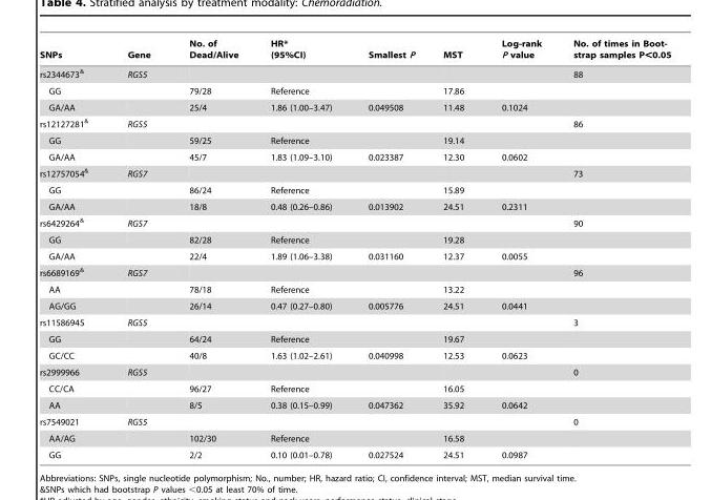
<table><thead><tr><td>SNPs</td><td>Gene</td><td>No. of Dead/Alive</td><td>HR* (95%CI)</td><td>Smallest P</td><td>MST</td><td>Log-rank P value</td><td>No. of times in Boot- strap samples P,0.05</td></tr></thead><tbody><tr><td>rs2344673&amp;</td><td>RGS5</td><td></td><td></td><td></td><td></td><td></td><td>88</td></tr><tr><td>GG</td><td></td><td>79/28</td><td>Reference</td><td></td><td>17.86</td><td></td><td></td></tr><tr><td>GA/AA</td><td></td><td>25/4</td><td>1.86 (1.00–3.47)</td><td>0.049508</td><td>11.48</td><td>0.1024</td><td></td></tr><tr><td>rs12127281&amp;</td><td>RGS5</td><td></td><td></td><td></td><td></td><td></td><td>86</td></tr><tr><td>GG</td><td></td><td>59/25</td><td>Reference</td><td></td><td>19.14</td><td></td><td></td></tr><tr><td>GA/AA</td><td></td><td>45/7</td><td>1.83 (1.09–3.10)</td><td>0.023387</td><td>12.30</td><td>0.0602</td><td></td></tr><tr><td>rs12757054&amp;</td><td>RGS7</td><td></td><td></td><td></td><td></td><td></td><td>73</td></tr><tr><td>GG</td><td></td><td>86/24</td><td>Reference</td><td></td><td>15.89</td><td></td><td></td></tr><tr><td>GA/AA</td><td></td><td>18/8</td><td>0.48 (0.26–0.86)</td><td>0.013902</td><td>24.51</td><td>0.2311</td><td></td></tr><tr><td>rs6429264&amp;</td><td>RGS7</td><td></td><td></td><td></td><td></td><td></td><td>90</td></tr><tr><td>GG</td><td></td><td>82/28</td><td>Reference</td><td></td><td>19.28</td><td></td><td></td></tr><tr><td>GA/AA</td><td></td><td>22/4</td><td>1.89 (1.06–3.38)</td><td>0.031160</td><td>12.37</td><td>0.0055</td><td></td></tr><tr><td>rs6689169&amp;</td><td>RGS7</td><td></td><td></td><td></td><td></td><td></td><td>96</td></tr><tr><td>AA</td><td></td><td>78/18</td><td>Reference</td><td></td><td>13.22</td><td></td><td></td></tr><tr><td>AG/GG</td><td></td><td>26/14</td><td>0.47 (0.27–0.80)</td><td>0.005776</td><td>24.51</td><td>0.0441</td><td></td></tr><tr><td>rs11586945</td><td>RGS5</td><td></td><td></td><td></td><td></td><td></td><td>3</td></tr><tr><td>GG</td><td></td><td>64/24</td><td>Reference</td><td></td><td>19.67</td><td></td><td></td></tr><tr><td>GC/CC</td><td></td><td>40/8</td><td>1.63 (1.02–2.61)</td><td>0.040998</td><td>12.53</td><td>0.0623</td><td></td></tr><tr><td>rs2999966</td><td>RGS5</td><td></td><td></td><td></td><td></td><td></td><td>0</td></tr><tr><td>CC/CA</td><td></td><td>96/27</td><td>Reference</td><td></td><td>16.05</td><td></td><td></td></tr><tr><td>AA</td><td></td><td>8/5</td><td>0.38 (0.15–0.99)</td><td>0.047362</td><td>35.92</td><td>0.0642</td><td></td></tr><tr><td>rs7549021</td><td>RGS5</td><td></td><td></td><td></td><td></td><td></td><td>0</td></tr><tr><td>AA/AG</td><td></td><td>102/30</td><td>Reference</td><td></td><td>16.58</td><td></td><td></td></tr><tr><td>GG</td><td></td><td>2/2</td><td>0.10 (0.01–0.78)</td><td>0.027524</td><td>24.51</td><td>0.0987</td><td></td></tr></tbody></table>